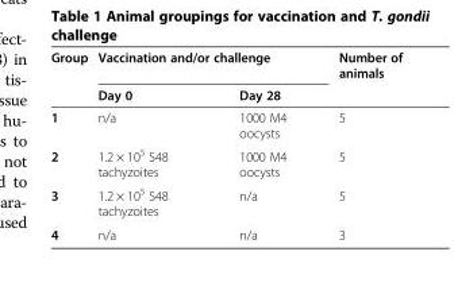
<table><thead><tr><td rowspan="2">Group</td><td colspan="2">Vaccination and/or challenge</td><td rowspan="2">Number of animals</td></tr><tr><td>Day 0</td><td>Day 28</td></tr></thead><tbody><tr><td>1</td><td>n/a</td><td>1000 M4 oocysts</td><td>5</td></tr><tr><td>2</td><td>1.2 × 10<sup>5</sup> S48 tachyzoites</td><td>1000 M4 oocysts</td><td>5</td></tr><tr><td>3</td><td>1.2 × 10<sup>5</sup> S48 tachyzoites</td><td>n/a</td><td>5</td></tr><tr><td>4</td><td>n/a</td><td>n/a</td><td>3</td></tr></tbody></table>